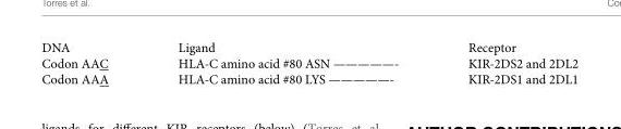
<table><tbody><tr><td>DNA</td><td>Ligand</td><td>Receptor</td></tr><tr><td>Codon AAC</td><td>HLA-C amino acid #80 ASN —————-</td><td>KIR-2DS2 and 2DL2</td></tr><tr><td>Codon AAA</td><td>HLA-C amino acid #80 LYS —————-</td><td>KIR-2DS1 and 2DL1</td></tr></tbody></table>